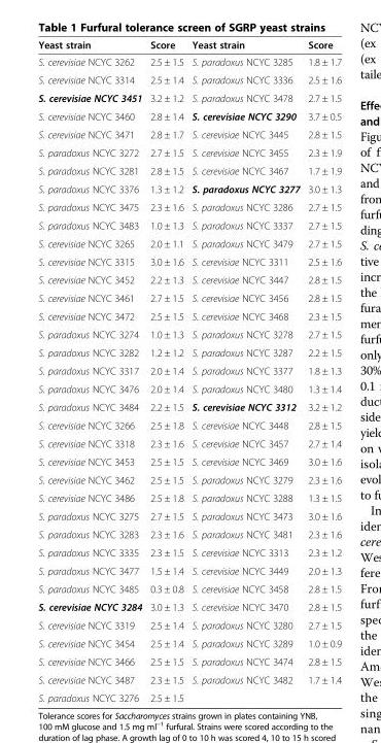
<table><thead><tr><td>Yeast strain</td><td>Score</td><td>Yeast strain</td><td>Score</td></tr></thead><tbody><tr><td>S. cerevisiae NCYC 3262</td><td>2.5 ± 1.5</td><td>S. paradoxus NCYC 3285</td><td>1.8 ± 1.7</td></tr><tr><td>S. cerevisiae NCYC 3314</td><td>2.5 ± 1.4</td><td>S. paradoxus NCYC 3336</td><td>2.5 ± 1.6</td></tr><tr><td>S. cerevisiae NCYC 3451</td><td>3.2 ± 1.2</td><td>S. paradoxus NCYC 3478</td><td>2.7 ± 1.5</td></tr><tr><td>S. cerevisiae NCYC 3460</td><td>2.8 ± 1.4</td><td>S. cerevisiae NCYC 3290</td><td>3.7 ± 0.5</td></tr><tr><td>S. cerevisiae NCYC 3471</td><td>2.8 ± 1.7</td><td>S. cerevisiae NCYC 3445</td><td>2.8 ± 1.5</td></tr><tr><td>S. paradoxus NCYC 3272</td><td>2.7 ± 1.5</td><td>S. cerevisiae NCYC 3455</td><td>2.3 ± 1.9</td></tr><tr><td>S. paradoxus NCYC 3281</td><td>2.8 ± 1.5</td><td>S. cerevisiae NCYC 3467</td><td>1.7 ± 1.9</td></tr><tr><td>S. paradoxus NCYC 3376</td><td>1.3 ± 1.2</td><td>S. paradoxus NCYC 3277</td><td>3.0 ± 1.3</td></tr><tr><td>S. paradoxus NCYC 3475</td><td>2.3 ± 1.6</td><td>S. paradoxus NCYC 3286</td><td>2.7 ± 1.5</td></tr><tr><td>S. paradoxus NCYC 3483</td><td>1.0 ± 1.3</td><td>S. paradoxus NCYC 3337</td><td>2.7 ± 1.5</td></tr><tr><td>S. cerevisiae NCYC 3265</td><td>2.0 ± 1.1</td><td>S. paradoxus NCYC 3479</td><td>2.7 ± 1.5</td></tr><tr><td>S. cerevisiae NCYC 3315</td><td>3.0 ± 1.6</td><td>S. cerevisiae NCYC 3311</td><td>2.5 ± 1.6</td></tr><tr><td>S. cerevisiae NCYC 3452</td><td>2.2 ± 1.3</td><td>S. cerevisiae NCYC 3447</td><td>2.8 ± 1.5</td></tr><tr><td>S. cerevisiae NCYC 3461</td><td>2.7 ± 1.5</td><td>S. cerevisiae NCYC 3456</td><td>2.8 ± 1.5</td></tr><tr><td>S. cerevisiae NCYC 3472</td><td>2.5 ± 1.5</td><td>S. cerevisiae NCYC 3468</td><td>2.3 ± 1.5</td></tr><tr><td>S. paradoxus NCYC 3274</td><td>1.0 ± 1.3</td><td>S. paradoxus NCYC 3278</td><td>2.7 ± 1.5</td></tr><tr><td>S. paradoxus NCYC 3282</td><td>1.2 ± 1.2</td><td>S. paradoxus NCYC 3287</td><td>2.2 ± 1.5</td></tr><tr><td>S. paradoxus NCYC 3317</td><td>2.0 ± 1.4</td><td>S. paradoxus NCYC 3377</td><td>1.8 ± 1.3</td></tr><tr><td>S. paradoxus NCYC 3476</td><td>2.0 ± 1.4</td><td>S. paradoxus NCYC 3480</td><td>1.3 ± 1.4</td></tr><tr><td>S. paradoxus NCYC 3484</td><td>2.2 ± 1.5</td><td>S. cerevisiae NCYC 3312</td><td>3.2 ± 1.2</td></tr><tr><td>S. cerevisiae NCYC 3266</td><td>2.5 ± 1.8</td><td>S. cerevisiae NCYC 3448</td><td>2.8 ± 1.5</td></tr><tr><td>S. cerevisiae NCYC 3318</td><td>2.3 ± 1.6</td><td>S. cerevisiae NCYC 3457</td><td>2.7 ± 1.4</td></tr><tr><td>S. cerevisiae NCYC 3453</td><td>2.5 ± 1.5</td><td>S. cerevisiae NCYC 3469</td><td>3.0 ± 1.6</td></tr><tr><td>S. cerevisiae NCYC 3462</td><td>2.5 ± 1.5</td><td>S. paradoxus NCYC 3279</td><td>2.3 ± 1.6</td></tr><tr><td>S. cerevisiae NCYC 3486</td><td>2.5 ± 1.8</td><td>S. paradoxus NCYC 3288</td><td>1.3 ± 1.5</td></tr><tr><td>S. paradoxus NCYC 3275</td><td>2.7 ± 1.5</td><td>S. paradoxus NCYC 3473</td><td>3.0 ± 1.6</td></tr><tr><td>S. paradoxus NCYC 3283</td><td>2.3 ± 1.6</td><td>S. paradoxus NCYC 3481</td><td>2.3 ± 1.6</td></tr><tr><td>S. paradoxus NCYC 3335</td><td>2.3 ± 1.5</td><td>S. cerevisiae NCYC 3313</td><td>2.3 ± 1.2</td></tr><tr><td>S. paradoxus NCYC 3477</td><td>1.5 ± 1.4</td><td>S. cerevisiae NCYC 3449</td><td>2.0 ± 1.3</td></tr><tr><td>S. paradoxus NCYC 3485</td><td>0.3 ± 0.8</td><td>S. cerevisiae NCYC 3458</td><td>2.8 ± 1.5</td></tr><tr><td>S. cerevisiae NCYC 3284</td><td>3.0 ± 1.3</td><td>S. cerevisiae NCYC 3470</td><td>2.8 ± 1.5</td></tr><tr><td>S. cerevisiae NCYC 3319</td><td>2.5 ± 1.4</td><td>S. paradoxus NCYC 3280</td><td>2.7 ± 1.5</td></tr><tr><td>S. cerevisiae NCYC 3454</td><td>2.5 ± 1.4</td><td>S. paradoxus NCYC 3289</td><td>1.0 ± 0.9</td></tr><tr><td>S. cerevisiae NCYC 3466</td><td>2.5 ± 1.5</td><td>S. paradoxus NCYC 3474</td><td>2.8 ± 1.5</td></tr><tr><td>S. cerevisiae NCYC 3487</td><td>2.3 ± 1.5</td><td>S. paradoxus NCYC 3482</td><td>1.7 ± 1.4</td></tr><tr><td>S. paradoxus NCYC 3276</td><td>2.5 ± 1.5</td><td></td><td></td></tr></tbody></table>